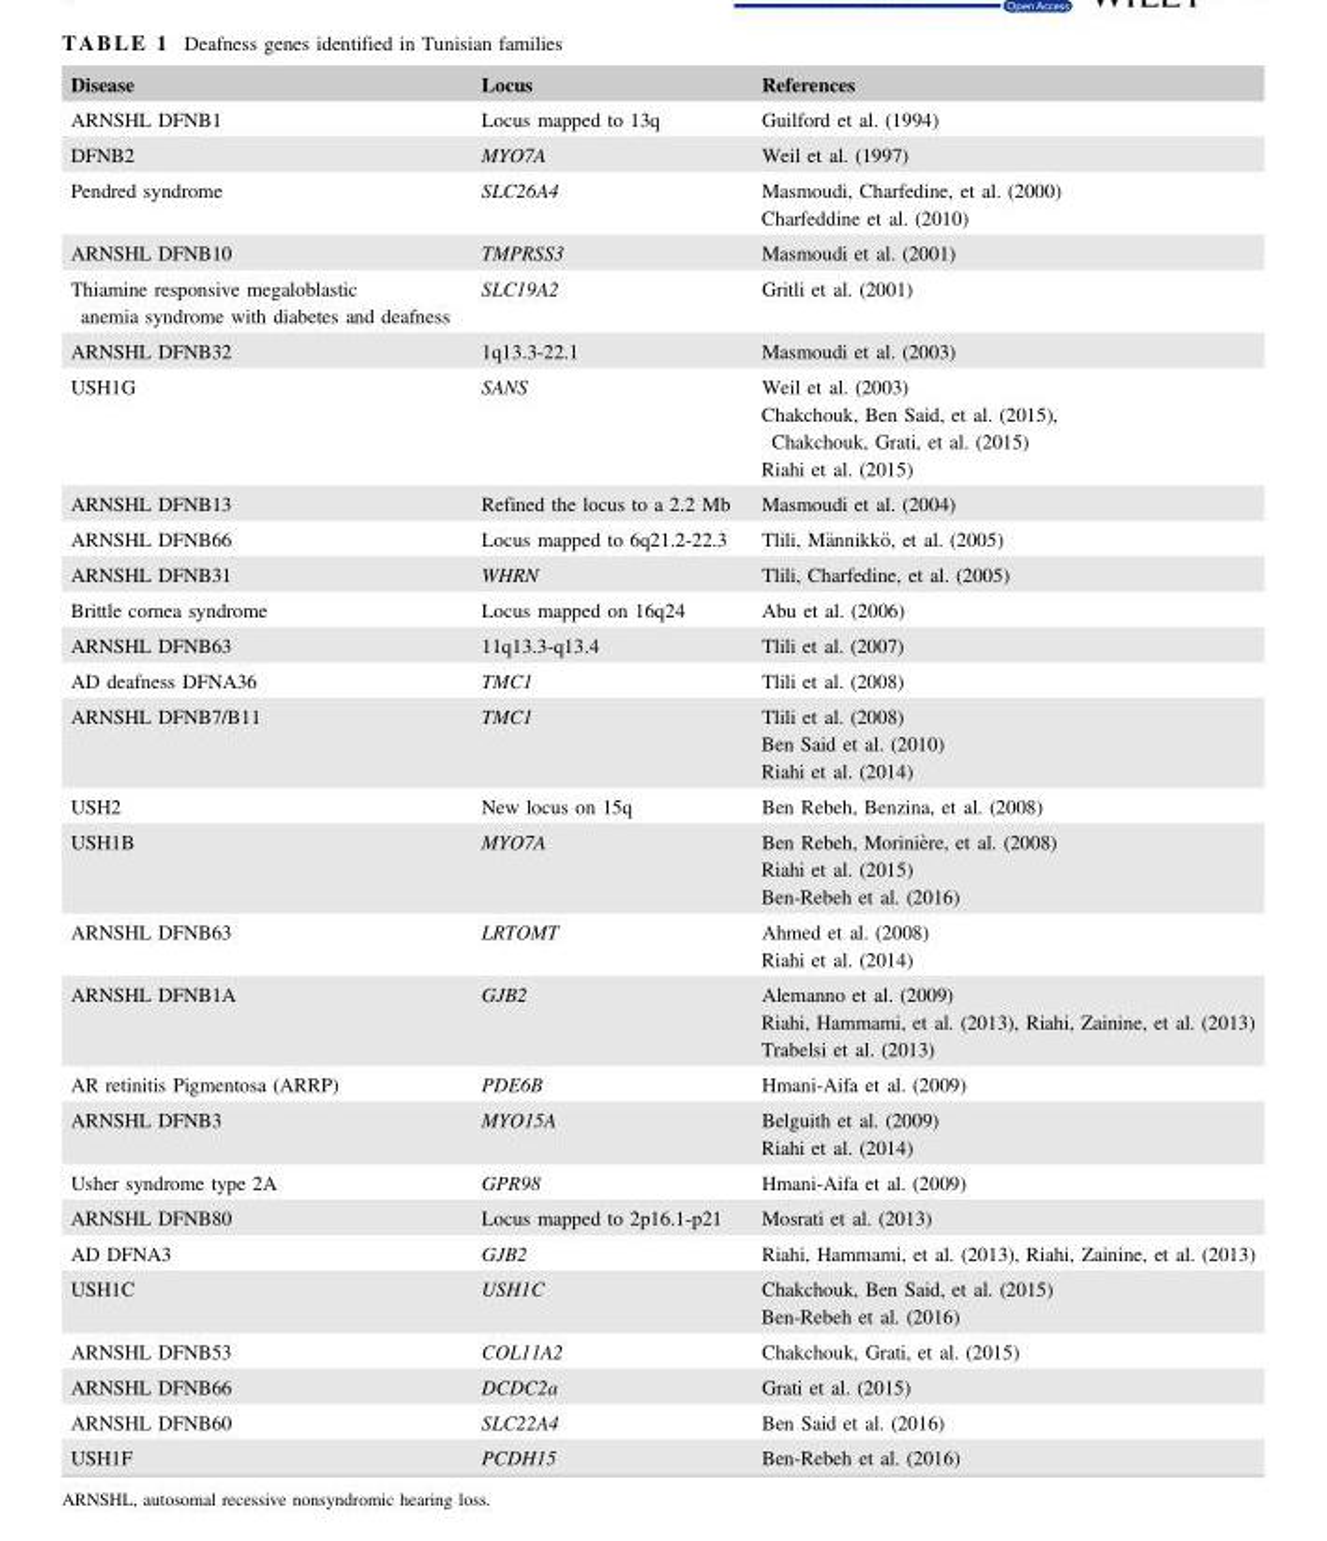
<table><thead><tr><td>Disease</td><td>Locus</td><td>References</td></tr></thead><tbody><tr><td>ARNSHL DFNB1</td><td>Locus mapped to 13q</td><td>Guilford et al. (1994)</td></tr><tr><td>DFNB2</td><td>MYO7A</td><td>Weil et al. (1997)</td></tr><tr><td>Pendred syndrome</td><td>SLC26A4</td><td>Masmoudi, Charfedine, et al. (2000) Charfeddine et al. (2010)</td></tr><tr><td>ARNSHL DFNB10</td><td>TMPRSS3</td><td>Masmoudi et al. (2001)</td></tr><tr><td>Thiamine responsive megaloblastic anemia syndrome with diabetes and deafness</td><td>SLC19A2</td><td>Gritli et al. (2001)</td></tr><tr><td>ARNSHL DFNB32</td><td>1q13.3-22.1</td><td>Masmoudi et al. (2003)</td></tr><tr><td>USH1G</td><td>SANS</td><td>Weil et al. (2003) Chakchouk, Ben Said, et al. (2015), Chakchouk, Grati, et al. (2015) Riahi et al. (2015)</td></tr><tr><td>ARNSHL DFNB13</td><td>Refined the locus to a 2.2 Mb</td><td>Masmoudi et al. (2004)</td></tr><tr><td>ARNSHL DFNB66</td><td>Locus mapped to 6q21.2-22.3</td><td>Tlili, M€annikk€o, et al. (2005)</td></tr><tr><td>ARNSHL DFNB31</td><td>WHRN</td><td>Tlili, Charfedine, et al. (2005)</td></tr><tr><td>Brittle cornea syndrome</td><td>Locus mapped on 16q24</td><td>Abu et al. (2006)</td></tr><tr><td>ARNSHL DFNB63</td><td>11q13.3-q13.4</td><td>Tlili et al. (2007)</td></tr><tr><td>AD deafness DFNA36</td><td>TMC1</td><td>Tlili et al. (2008)</td></tr><tr><td>ARNSHL DFNB7/B11</td><td>TMC1</td><td>Tlili et al. (2008) Ben Said et al. (2010) Riahi et al. (2014)</td></tr><tr><td>USH2</td><td>New locus on 15q</td><td>Ben Rebeh, Benzina, et al. (2008)</td></tr><tr><td>USH1B</td><td>MYO7A</td><td>Ben Rebeh, Morini�ere, et al. (2008) Riahi et al. (2015) Ben-Rebeh et al. (2016)</td></tr><tr><td>ARNSHL DFNB63</td><td>LRTOMT</td><td>Ahmed et al. (2008) Riahi et al. (2014)</td></tr><tr><td>ARNSHL DFNB1A</td><td>GJB2</td><td>Alemanno et al. (2009) Riahi, Hammami, et al. (2013), Riahi, Zainine, et al. (2013) Trabelsi et al. (2013)</td></tr><tr><td>AR retinitis Pigmentosa (ARRP)</td><td>PDE6B</td><td>Hmani-Aifa et al. (2009)</td></tr><tr><td>ARNSHL DFNB3</td><td>MYO15A</td><td>Belguith et al. (2009) Riahi et al. (2014)</td></tr><tr><td>Usher syndrome type 2A</td><td>GPR98</td><td>Hmani-Aifa et al. (2009)</td></tr><tr><td>ARNSHL DFNB80</td><td>Locus mapped to 2p16.1-p21</td><td>Mosrati et al. (2013)</td></tr><tr><td>AD DFNA3</td><td>GJB2</td><td>Riahi, Hammami, et al. (2013), Riahi, Zainine, et al. (2013)</td></tr><tr><td>USH1C</td><td>USH1C</td><td>Chakchouk, Ben Said, et al. (2015) Ben-Rebeh et al. (2016)</td></tr><tr><td>ARNSHL DFNB53</td><td>COL11A2</td><td>Chakchouk, Grati, et al. (2015)</td></tr><tr><td>ARNSHL DFNB66</td><td>DCDC2a</td><td>Grati et al. (2015)</td></tr><tr><td>ARNSHL DFNB60</td><td>SLC22A4</td><td>Ben Said et al. (2016)</td></tr><tr><td>USH1F</td><td>PCDH15</td><td>Ben-Rebeh et al. (2016)</td></tr></tbody></table>